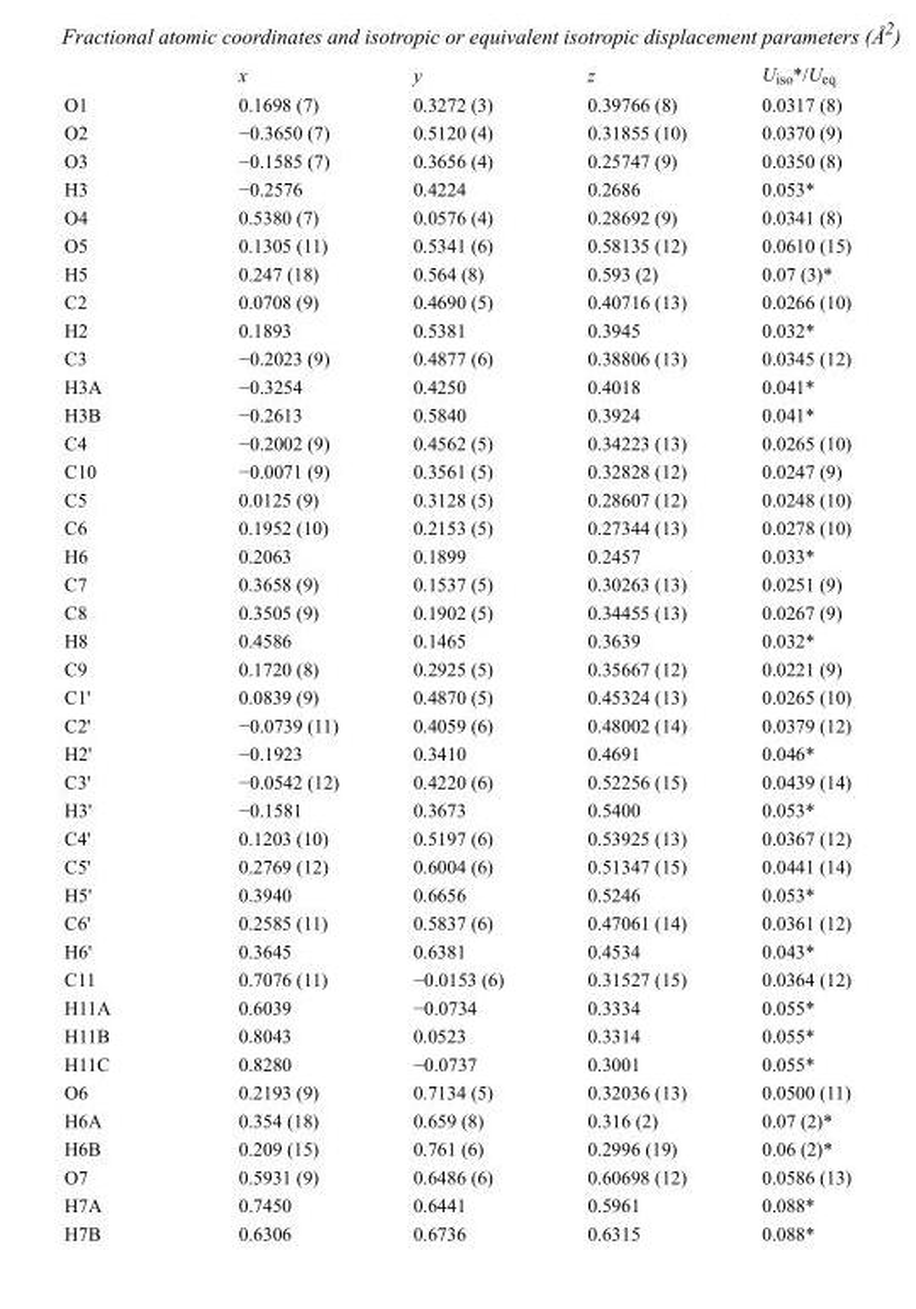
<table><thead><tr><td></td><td>x</td><td>y</td><td>z</td><td>U<sub>iso</sub>*/U<sub>eq</sub></td></tr></thead><tbody><tr><td>O1</td><td>0.1698 (7)</td><td>0.3272 (3)</td><td>0.39766 (8)</td><td>0.0317 (8)</td></tr><tr><td>O2</td><td>−0.3650 (7)</td><td>0.5120 (4)</td><td>0.31855 (10)</td><td>0.0370 (9)</td></tr><tr><td>O3</td><td>−0.1585 (7)</td><td>0.3656 (4)</td><td>0.25747 (9)</td><td>0.0350 (8)</td></tr><tr><td>H3</td><td>−0.2576</td><td>0.4224</td><td>0.2686</td><td>0.053*</td></tr><tr><td>O4</td><td>0.5380 (7)</td><td>0.0576 (4)</td><td>0.28692 (9)</td><td>0.0341 (8)</td></tr><tr><td>O5</td><td>0.1305 (11)</td><td>0.5341 (6)</td><td>0.58135 (12)</td><td>0.0610 (15)</td></tr><tr><td>H5</td><td>0.247 (18)</td><td>0.564 (8)</td><td>0.593 (2)</td><td>0.07 (3)*</td></tr><tr><td>C2</td><td>0.0708 (9)</td><td>0.4690 (5)</td><td>0.40716 (13)</td><td>0.0266 (10)</td></tr><tr><td>H2</td><td>0.1893</td><td>0.5381</td><td>0.3945</td><td>0.032*</td></tr><tr><td>C3</td><td>−0.2023 (9)</td><td>0.4877 (6)</td><td>0.38806 (13)</td><td>0.0345 (12)</td></tr><tr><td>H3A</td><td>−0.3254</td><td>0.4250</td><td>0.4018</td><td>0.041*</td></tr><tr><td>H3B</td><td>−0.2613</td><td>0.5840</td><td>0.3924</td><td>0.041*</td></tr><tr><td>C4</td><td>−0.2002 (9)</td><td>0.4562 (5)</td><td>0.34223 (13)</td><td>0.0265 (10)</td></tr><tr><td>C10</td><td>−0.0071 (9)</td><td>0.3561 (5)</td><td>0.32828 (12)</td><td>0.0247 (9)</td></tr><tr><td>C5</td><td>0.0125 (9)</td><td>0.3128 (5)</td><td>0.28607 (12)</td><td>0.0248 (10)</td></tr><tr><td>C6</td><td>0.1952 (10)</td><td>0.2153 (5)</td><td>0.27344 (13)</td><td>0.0278 (10)</td></tr><tr><td>H6</td><td>0.2063</td><td>0.1899</td><td>0.2457</td><td>0.033*</td></tr><tr><td>C7</td><td>0.3658 (9)</td><td>0.1537 (5)</td><td>0.30263 (13)</td><td>0.0251 (9)</td></tr><tr><td>C8</td><td>0.3505 (9)</td><td>0.1902 (5)</td><td>0.34455 (13)</td><td>0.0267 (9)</td></tr><tr><td>H8</td><td>0.4586</td><td>0.1465</td><td>0.3639</td><td>0.032*</td></tr><tr><td>C9</td><td>0.1720 (8)</td><td>0.2925 (5)</td><td>0.35667 (12)</td><td>0.0221 (9)</td></tr><tr><td>C1&#x27;</td><td>0.0839 (9)</td><td>0.4870 (5)</td><td>0.45324 (13)</td><td>0.0265 (10)</td></tr><tr><td>C2&#x27;</td><td>−0.0739 (11)</td><td>0.4059 (6)</td><td>0.48002 (14)</td><td>0.0379 (12)</td></tr><tr><td>H2&#x27;</td><td>−0.1923</td><td>0.3410</td><td>0.4691</td><td>0.046*</td></tr><tr><td>C3&#x27;</td><td>−0.0542 (12)</td><td>0.4220 (6)</td><td>0.52256 (15)</td><td>0.0439 (14)</td></tr><tr><td>H3&#x27;</td><td>−0.1581</td><td>0.3673</td><td>0.5400</td><td>0.053*</td></tr><tr><td>C4&#x27;</td><td>0.1203 (10)</td><td>0.5197 (6)</td><td>0.53925 (13)</td><td>0.0367 (12)</td></tr><tr><td>C5&#x27;</td><td>0.2769 (12)</td><td>0.6004 (6)</td><td>0.51347 (15)</td><td>0.0441 (14)</td></tr><tr><td>H5&#x27;</td><td>0.3940</td><td>0.6656</td><td>0.5246</td><td>0.053*</td></tr><tr><td>C6&#x27;</td><td>0.2585 (11)</td><td>0.5837 (6)</td><td>0.47061 (14)</td><td>0.0361 (12)</td></tr><tr><td>H6&#x27;</td><td>0.3645</td><td>0.6381</td><td>0.4534</td><td>0.043*</td></tr><tr><td>C11</td><td>0.7076 (11)</td><td>−0.0153 (6)</td><td>0.31527 (15)</td><td>0.0364 (12)</td></tr><tr><td>H11A</td><td>0.6039</td><td>−0.0734</td><td>0.3334</td><td>0.055*</td></tr><tr><td>H11B</td><td>0.8043</td><td>0.0523</td><td>0.3314</td><td>0.055*</td></tr><tr><td>H11C</td><td>0.8280</td><td>−0.0737</td><td>0.3001</td><td>0.055*</td></tr><tr><td>O6</td><td>0.2193 (9)</td><td>0.7134 (5)</td><td>0.32036 (13)</td><td>0.0500 (11)</td></tr><tr><td>H6A</td><td>0.354 (18)</td><td>0.659 (8)</td><td>0.316 (2)</td><td>0.07 (2)*</td></tr><tr><td>H6B</td><td>0.209 (15)</td><td>0.761 (6)</td><td>0.2996 (19)</td><td>0.06 (2)*</td></tr><tr><td>O7</td><td>0.5931 (9)</td><td>0.6486 (6)</td><td>0.60698 (12)</td><td>0.0586 (13)</td></tr><tr><td>H7A</td><td>0.7450</td><td>0.6441</td><td>0.5961</td><td>0.088*</td></tr><tr><td>H7B</td><td>0.6306</td><td>0.6736</td><td>0.6315</td><td>0.088*</td></tr></tbody></table>